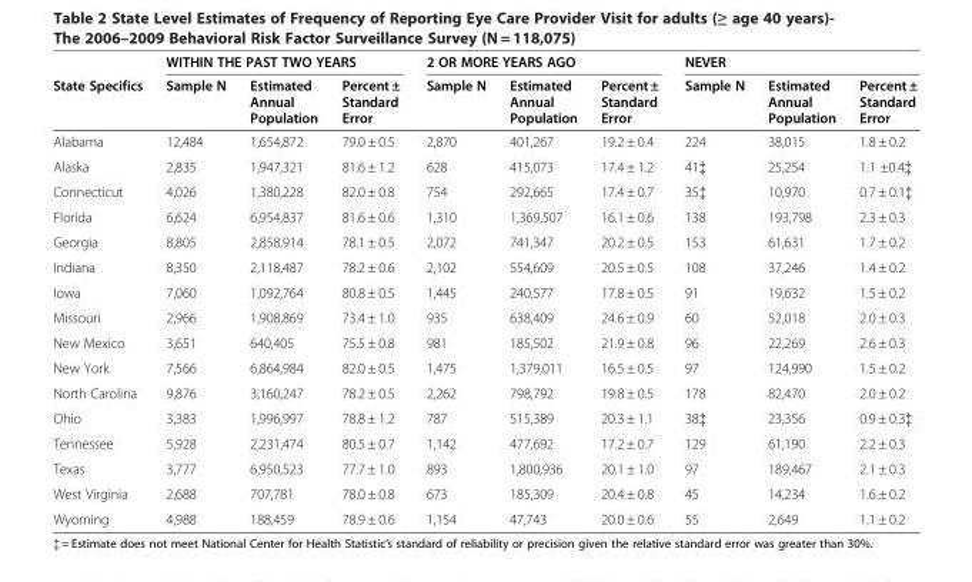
<table><thead><tr><td rowspan="2">State Specifics</td><td colspan="3">WITHIN THE PAST TWO YEARS</td><td colspan="3">2 OR MORE YEARS AGO</td><td colspan="3">NEVER</td></tr><tr><td>Sample N</td><td>Estimated Annual Population</td><td>Percent ± Standard Error</td><td>Sample N</td><td>Estimated Annual Population</td><td>Percent ± Standard Error</td><td>Sample N</td><td>Estimated Annual Population</td><td>Percent ± Standard Error</td></tr></thead><tbody><tr><td>Alabama</td><td>12,484</td><td>1,654,872</td><td>79.0 ± 0.5</td><td>2,870</td><td>401,267</td><td>19.2 ± 0.4</td><td>224</td><td>38,015</td><td>1.8 ± 0.2</td></tr><tr><td>Alaska</td><td>2,835</td><td>1,947,321</td><td>81.6 ± 1.2</td><td>628</td><td>415,073</td><td>17.4 ± 1.2</td><td>41‡</td><td>25,254</td><td>1.1 ±0.4‡</td></tr><tr><td>Connecticut</td><td>4,026</td><td>1,380,228</td><td>82.0 ± 0.8</td><td>754</td><td>292,665</td><td>17.4 ± 0.7</td><td>35‡</td><td>10,970</td><td>0.7 ± 0.1‡</td></tr><tr><td>Florida</td><td>6,624</td><td>6,954,837</td><td>81.6 ± 0.6</td><td>1,310</td><td>1,369,507</td><td>16.1 ± 0.6</td><td>138</td><td>193,798</td><td>2.3 ± 0.3</td></tr><tr><td>Georgia</td><td>8,805</td><td>2,858,914</td><td>78.1 ± 0.5</td><td>2,072</td><td>741,347</td><td>20.2 ± 0.5</td><td>153</td><td>61,631</td><td>1.7 ± 0.2</td></tr><tr><td>Indiana</td><td>8,350</td><td>2,118,487</td><td>78.2 ± 0.6</td><td>2,102</td><td>554,609</td><td>20.5 ± 0.5</td><td>108</td><td>37,246</td><td>1.4 ± 0.2</td></tr><tr><td>Iowa</td><td>7,060</td><td>1,092,764</td><td>80.8 ± 0.5</td><td>1,445</td><td>240,577</td><td>17.8 ± 0.5</td><td>91</td><td>19,632</td><td>1.5 ± 0.2</td></tr><tr><td>Missouri</td><td>2,966</td><td>1,908,869</td><td>73.4 ± 1.0</td><td>935</td><td>638,409</td><td>24.6 ± 0.9</td><td>60</td><td>52,018</td><td>2.0 ± 0.3</td></tr><tr><td>New Mexico</td><td>3,651</td><td>640,405</td><td>75.5 ± 0.8</td><td>981</td><td>185,502</td><td>21.9 ± 0.8</td><td>96</td><td>22,269</td><td>2.6 ± 0.3</td></tr><tr><td>New York</td><td>7,566</td><td>6,864,984</td><td>82.0 ± 0.5</td><td>1,475</td><td>1,379,011</td><td>16.5 ± 0.5</td><td>97</td><td>124,990</td><td>1.5 ± 0.2</td></tr><tr><td>North Carolina</td><td>9,876</td><td>3,160,247</td><td>78.2 ± 0.5</td><td>2,262</td><td>798,792</td><td>19.8 ± 0.5</td><td>178</td><td>82,470</td><td>2.0 ± 0.2</td></tr><tr><td>Ohio</td><td>3,383</td><td>1,996,997</td><td>78.8 ± 1.2</td><td>787</td><td>515,389</td><td>20.3 ± 1.1</td><td>38‡</td><td>23,356</td><td>0.9 ± 0.3‡</td></tr><tr><td>Tennessee</td><td>5,928</td><td>2,231,474</td><td>80.5 ± 0.7</td><td>1,142</td><td>477,692</td><td>17.2 ± 0.7</td><td>129</td><td>61,190</td><td>2.2 ± 0.3</td></tr><tr><td>Texas</td><td>3,777</td><td>6,950,523</td><td>77.7 ± 1.0</td><td>893</td><td>1,800,936</td><td>20.1 ± 1.0</td><td>97</td><td>189,467</td><td>2.1 ± 0.3</td></tr><tr><td>West Virginia</td><td>2,688</td><td>707,781</td><td>78.0 ± 0.8</td><td>673</td><td>185,309</td><td>20.4 ± 0.8</td><td>45</td><td>14,234</td><td>1.6 ± 0.2</td></tr><tr><td>Wyoming</td><td>4,988</td><td>188,459</td><td>78.9 ± 0.6</td><td>1,154</td><td>47,743</td><td>20.0 ± 0.6</td><td>55</td><td>2,649</td><td>1.1 ± 0.2</td></tr></tbody></table>